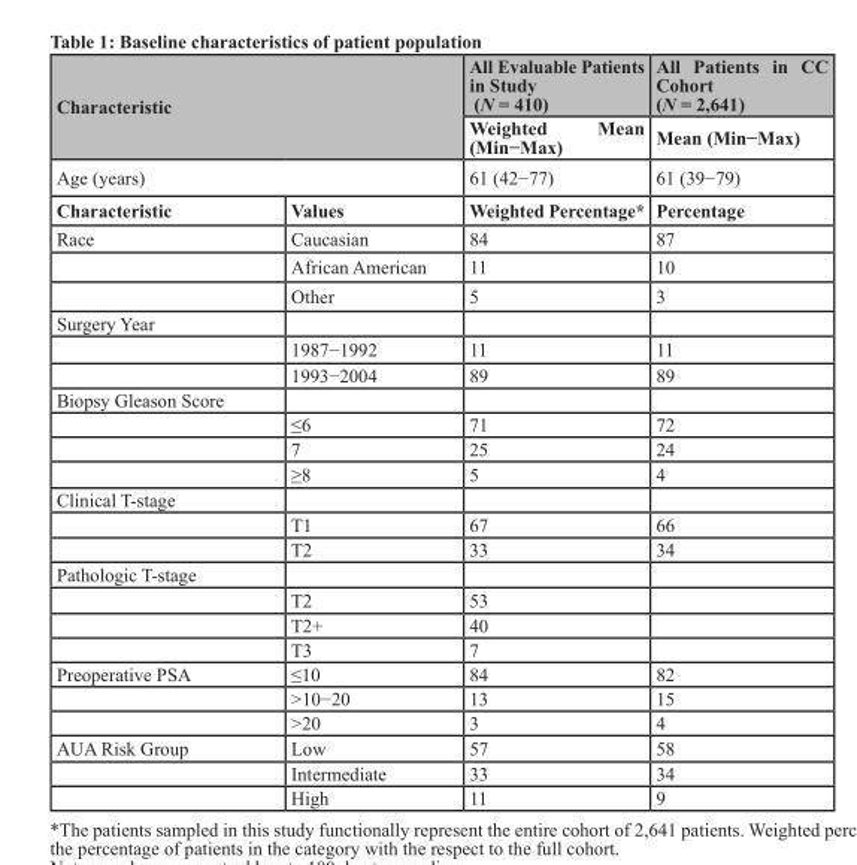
<table><thead><tr><td rowspan="3" colspan="2">characteristic Age (years)</td><td rowspan="4">All Evaluable Patients in study (N = 410) Weighted Mean (Min−Max) 61 (42−77) Weighted Percentage*</td><td rowspan="4">All Patients in cohort (N = 2,641) Mean (Min−Max) 61 (39−79) Percentage</td></tr><tr></tr><tr></tr><tr><td>characteristic</td><td>Values</td></tr></thead><tbody><tr><td rowspan="3">Race</td><td>Caucasian</td><td>84</td><td>87</td></tr><tr><td>African American</td><td>11</td><td>10</td></tr><tr><td>Other</td><td>5</td><td>3</td></tr><tr><td colspan="4">Surgery Year</td></tr><tr><td></td><td>1987−1992</td><td>11</td><td>11</td></tr><tr><td></td><td>1993−2004</td><td>89</td><td>89</td></tr><tr><td colspan="4">Biopsy Gleason Score</td></tr><tr><td></td><td>≤6</td><td>71</td><td>72</td></tr><tr><td></td><td>7</td><td>25</td><td>24</td></tr><tr><td></td><td>≥8</td><td>5</td><td>4</td></tr><tr><td colspan="4">Clinical T-stage</td></tr><tr><td></td><td>T1</td><td>67</td><td>66</td></tr><tr><td></td><td>T2</td><td>33</td><td>34</td></tr><tr><td colspan="4">Pathologic T-stage</td></tr><tr><td></td><td>T2</td><td>53</td><td></td></tr><tr><td></td><td>T2+</td><td>40</td><td></td></tr><tr><td></td><td>T3</td><td>7</td><td></td></tr><tr><td rowspan="3">Preoperative PSA</td><td>≤10</td><td>84</td><td>82</td></tr><tr><td>&gt;10−20</td><td>13</td><td>15</td></tr><tr><td>&gt;20</td><td>3</td><td>4</td></tr><tr><td rowspan="3">AUA Risk Group</td><td>Low</td><td>57</td><td>58</td></tr><tr><td>Intermediate</td><td>33</td><td>34</td></tr><tr><td>High</td><td>11</td><td>9</td></tr></tbody></table>